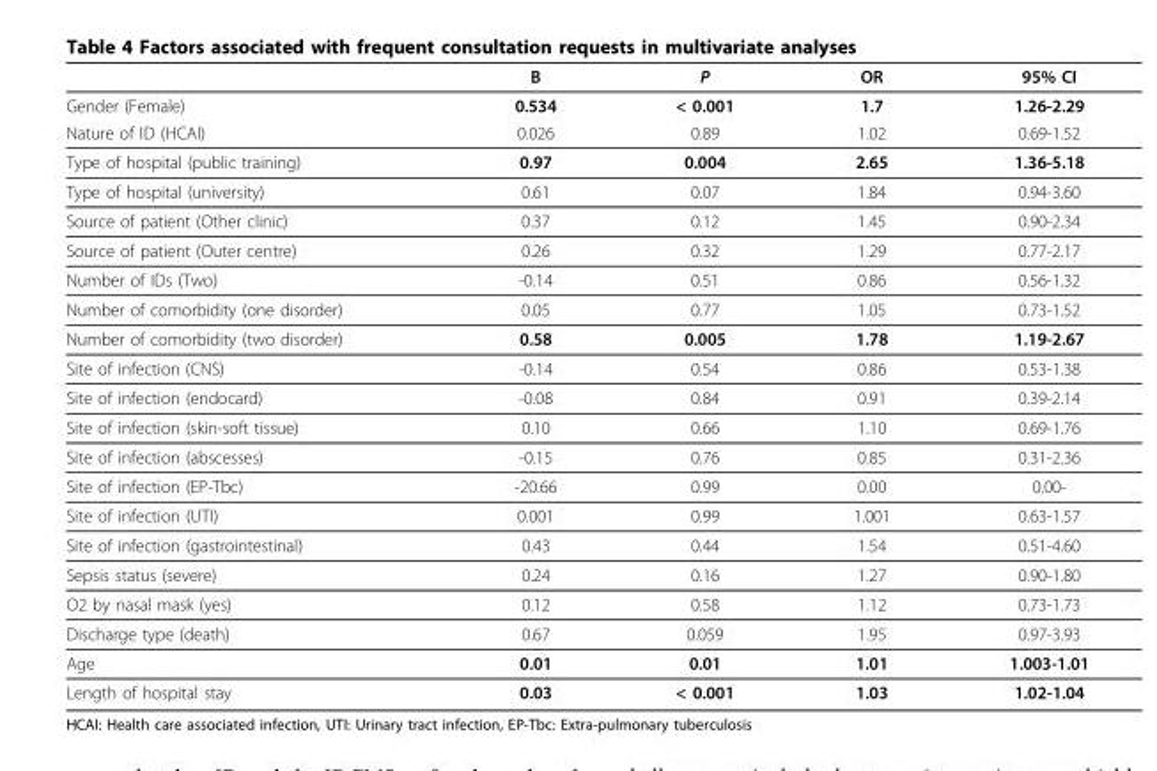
<table><thead><tr><td></td><td>B</td><td>P</td><td>OR</td><td>95% CI</td></tr></thead><tbody><tr><td>Gender (Female)</td><td>0.534</td><td>&lt; 0.001</td><td>1.7</td><td>1.26-2.29</td></tr><tr><td>Nature of ID (HCAI)</td><td>0.026</td><td>0.89</td><td>1.02</td><td>0.69-1.52</td></tr><tr><td>Type of hospital (public training)</td><td>0.97</td><td>0.004</td><td>2.65</td><td>1.36-5.18</td></tr><tr><td>Type of hospital (university)</td><td>0.61</td><td>0.07</td><td>1.84</td><td>0.94-3.60</td></tr><tr><td>Source of patient (Other clinic)</td><td>0.37</td><td>0.12</td><td>1.45</td><td>0.90-2.34</td></tr><tr><td>Source of patient (Outer centre)</td><td>0.26</td><td>0.32</td><td>1.29</td><td>0.77-2.17</td></tr><tr><td>Number of IDs (Two)</td><td>-0.14</td><td>0.51</td><td>0.86</td><td>0.56-1.32</td></tr><tr><td>Number of comorbidity (one disorder)</td><td>0.05</td><td>0.77</td><td>1.05</td><td>0.73-1.52</td></tr><tr><td>Number of comorbidity (two disorder)</td><td>0.58</td><td>0.005</td><td>1.78</td><td>1.19-2.67</td></tr><tr><td>Site of infection (CNS)</td><td>-0.14</td><td>0.54</td><td>0.86</td><td>0.53-1.38</td></tr><tr><td>Site of infection (endocard)</td><td>-0.08</td><td>0.84</td><td>0.91</td><td>0.39-2.14</td></tr><tr><td>Site of infection (skin-soft tissue)</td><td>0.10</td><td>0.66</td><td>1.10</td><td>0.69-1.76</td></tr><tr><td>Site of infection (abscesses)</td><td>-0.15</td><td>0.76</td><td>0.85</td><td>0.31-2.36</td></tr><tr><td>Site of infection (EP-Tbc)</td><td>-20.66</td><td>0.99</td><td>0.00</td><td>0.00-</td></tr><tr><td>Site of infection (UTI)</td><td>0.001</td><td>0.99</td><td>1.001</td><td>0.63-1.57</td></tr><tr><td>Site of infection (gastrointestinal)</td><td>0.43</td><td>0.44</td><td>1.54</td><td>0.51-4.60</td></tr><tr><td>Sepsis status (severe)</td><td>0.24</td><td>0.16</td><td>1.27</td><td>0.90-1.80</td></tr><tr><td>O2 by nasal mask (yes)</td><td>0.12</td><td>0.58</td><td>1.12</td><td>0.73-1.73</td></tr><tr><td>Discharge type (death)</td><td>0.67</td><td>0.059</td><td>1.95</td><td>0.97-3.93</td></tr><tr><td>Age</td><td>0.01</td><td>0.01</td><td>1.01</td><td>1.003-1.01</td></tr><tr><td>Length of hospital stay</td><td>0.03</td><td>&lt; 0.001</td><td>1.03</td><td>1.02-1.04</td></tr></tbody></table>